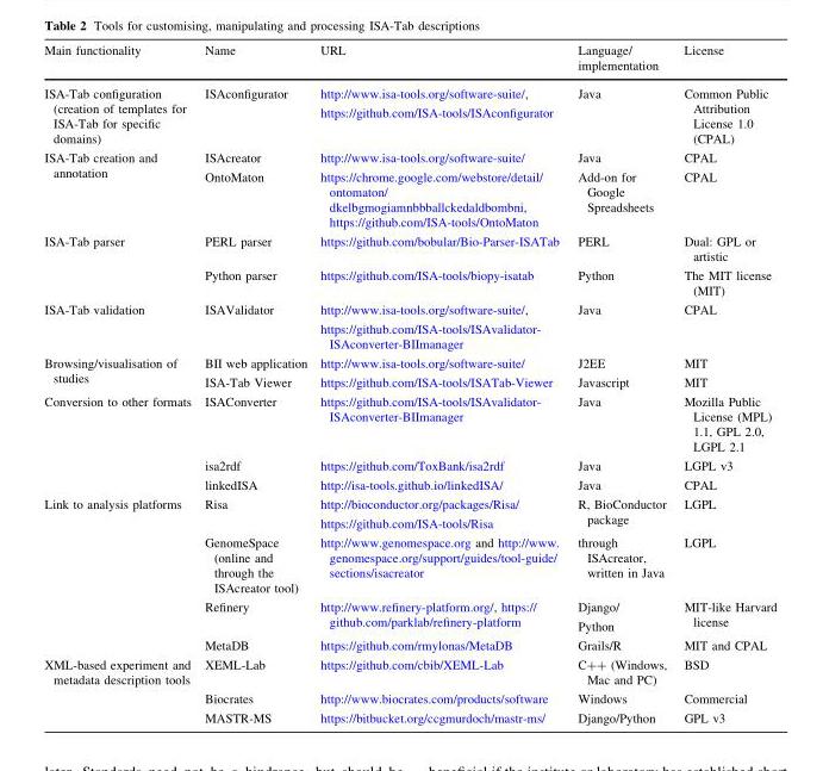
<table><thead><tr><td>Main functionality</td><td>Name</td><td>URL</td><td>Language/ implementation</td><td>License</td></tr></thead><tbody><tr><td>ISA-Tab configuration (creation of templates for ISA-Tab for specific domains)</td><td>ISAconfigurator</td><td>http://www.isa-tools.org/software-suite/, https://github.com/ISA-tools/ISAconfigurator</td><td>Java</td><td>Common Public Attribution License 1.0 (CPAL)</td></tr><tr><td rowspan="2">ISA-Tab creation and annotation</td><td>ISAcreator</td><td>http://www.isa-tools.org/software-suite/</td><td>Java</td><td>CPAL</td></tr><tr><td>OntoMaton</td><td>https://chrome.google.com/webstore/detail/ ontomaton/ dkelbgmogiamnbbballckedaldbombni, https://github.com/ISA-tools/OntoMaton</td><td>Add-on for Google Spreadsheets</td><td>CPAL</td></tr><tr><td rowspan="2">ISA-Tab parser</td><td>PERL parser</td><td>https://github.com/bobular/Bio-Parser-ISATab</td><td>PERL</td><td>Dual: GPL or artistic</td></tr><tr><td>Python parser</td><td>https://github.com/ISA-tools/biopy-isatab</td><td>Python</td><td>The MIT license (MIT)</td></tr><tr><td>ISA-Tab validation</td><td>ISAValidator</td><td>http://www.isa-tools.org/software-suite/, https://github.com/ISA-tools/ISAvalidator- ISAconverter-BIImanager</td><td>Java</td><td>CPAL</td></tr><tr><td rowspan="2">Browsing/visualisation of studies</td><td>BII web application</td><td>http://www.isa-tools.org/software-suite/</td><td>J2EE</td><td>MIT</td></tr><tr><td>ISA-Tab Viewer</td><td>https://github.com/ISA-tools/ISATab-Viewer</td><td>Javascript</td><td>MIT</td></tr><tr><td rowspan="3">Conversion to other formats</td><td>ISAConverter</td><td>https://github.com/ISA-tools/ISAvalidator- ISAconverter-BIImanager</td><td>Java</td><td>Mozilla Public License (MPL) 1.1, GPL 2.0, LGPL 2.1</td></tr><tr><td>isa2rdf</td><td>https://github.com/ToxBank/isa2rdf</td><td>Java</td><td>LGPL v3</td></tr><tr><td>linkedISA</td><td>http://isa-tools.github.io/linkedISA/</td><td>Java</td><td>CPAL</td></tr><tr><td rowspan="4">Link to analysis platforms</td><td>Risa</td><td>http://bioconductor.org/packages/Risa/ https://github.com/ISA-tools/Risa</td><td>R, BioConductor package</td><td>LGPL</td></tr><tr><td>GenomeSpace (online and through the ISAcreator tool)</td><td>http://www.genomespace.org and http://www. genomespace.org/support/guides/tool-guide/ sections/isacreator</td><td>through ISAcreator, written in Java</td><td>LGPL</td></tr><tr><td>Refinery</td><td>http://www.refinery-platform.org/, https:// github.com/parklab/refinery-platform</td><td>Django/ Python</td><td>MIT-like Harvard license</td></tr><tr><td>MetaDB</td><td>https://github.com/rmylonas/MetaDB</td><td>Grails/R</td><td>MIT and CPAL</td></tr><tr><td rowspan="3">XML-based experiment and metadata description tools</td><td>XEML-Lab</td><td>https://github.com/cbib/XEML-Lab</td><td>C++ (Windows, Mac and PC)</td><td>BSD</td></tr><tr><td>Biocrates</td><td>http://www.biocrates.com/products/software</td><td>Windows</td><td>Commercial</td></tr><tr><td>MASTR-MS</td><td>https://bitbucket.org/ccgmurdoch/mastr-ms/</td><td>Django/Python</td><td>GPL v3</td></tr></tbody></table>